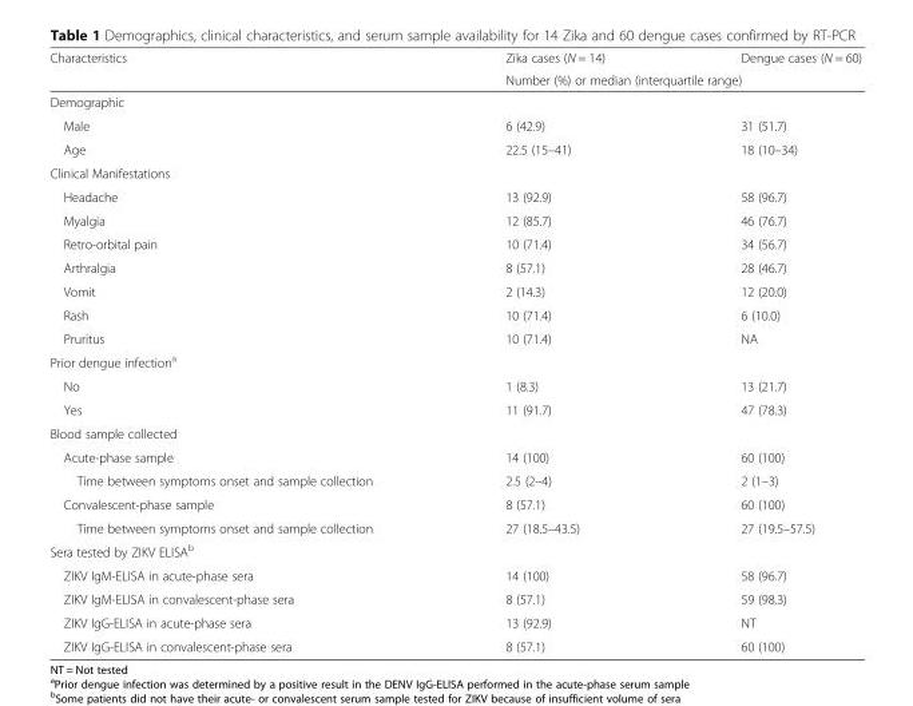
<table><thead><tr><td rowspan="2">Characteristics</td><td>Zika cases (N = 14)</td><td>Dengue cases (N = 60)</td></tr><tr><td colspan="2">Number (%) or median (interquartile range)</td></tr></thead><tbody><tr><td colspan="3">Demographic</td></tr><tr><td>Male</td><td>6 (42.9)</td><td>31 (51.7)</td></tr><tr><td>Age</td><td>22.5 (15–41)</td><td>18 (10–34)</td></tr><tr><td colspan="3">Clinical Manifestations</td></tr><tr><td>Headache</td><td>13 (92.9)</td><td>58 (96.7)</td></tr><tr><td>Myalgia</td><td>12 (85.7)</td><td>46 (76.7)</td></tr><tr><td>Retro-orbital pain</td><td>10 (71.4)</td><td>34 (56.7)</td></tr><tr><td>Arthralgia</td><td>8 (57.1)</td><td>28 (46.7)</td></tr><tr><td>Vomit</td><td>2 (14.3)</td><td>12 (20.0)</td></tr><tr><td>Rash</td><td>10 (71.4)</td><td>6 (10.0)</td></tr><tr><td>Pruritus</td><td>10 (71.4)</td><td>NA</td></tr><tr><td colspan="3">Prior dengue infection<sup>a</sup></td></tr><tr><td>No</td><td>1 (8.3)</td><td>13 (21.7)</td></tr><tr><td>Yes</td><td>11 (91.7)</td><td>47 (78.3)</td></tr><tr><td colspan="3">Blood sample collected</td></tr><tr><td>Acute-phase sample</td><td>14 (100)</td><td>60 (100)</td></tr><tr><td>Time between symptoms onset and sample collection</td><td>2.5 (2–4)</td><td>2 (1–3)</td></tr><tr><td>Convalescent-phase sample</td><td>8 (57.1)</td><td>60 (100)</td></tr><tr><td>Time between symptoms onset and sample collection</td><td>27 (18.5–43.5)</td><td>27 (19.5–57.5)</td></tr><tr><td colspan="3">Sera tested by ZIKV ELISA<sup>b</sup></td></tr><tr><td>ZIKV IgM-ELISA in acute-phase sera</td><td>14 (100)</td><td>58 (96.7)</td></tr><tr><td>ZIKV IgM-ELISA in convalescent-phase sera</td><td>8 (57.1)</td><td>59 (98.3)</td></tr><tr><td>ZIKV IgG-ELISA in acute-phase sera</td><td>13 (92.9)</td><td>NT</td></tr><tr><td>ZIKV IgG-ELISA in convalescent-phase sera</td><td>8 (57.1)</td><td>60 (100)</td></tr></tbody></table>